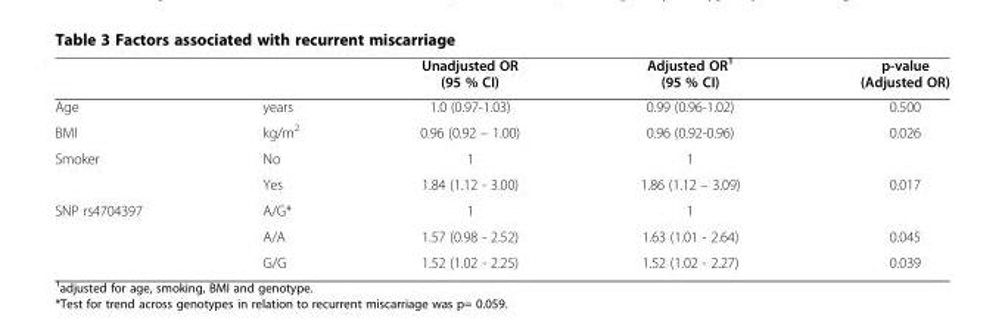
<table><thead><tr><td></td><td></td><td>Unadjusted OR (95 % CI)</td><td>Adjusted OR<sup>1</sup> (95 % CI)</td><td>p-value (Adjusted OR)</td></tr></thead><tbody><tr><td>Age</td><td>years</td><td>1.0 (0.97-1.03)</td><td>0.99 (0.96-1.02)</td><td>0.500</td></tr><tr><td>BMI</td><td>kg/m<sup>2</sup></td><td>0.96 (0.92 – 1.00)</td><td>0.96 (0.92-0.96)</td><td>0.026</td></tr><tr><td rowspan="2">Smoker</td><td>No</td><td>1</td><td>1</td><td></td></tr><tr><td>Yes</td><td>1.84 (1.12 - 3.00)</td><td>1.86 (1.12 – 3.09)</td><td>0.017</td></tr><tr><td rowspan="3">SNP rs4704397</td><td>A/G*</td><td>1</td><td>1</td><td></td></tr><tr><td>A/A</td><td>1.57 (0.98 - 2.52)</td><td>1.63 (1.01 - 2.64)</td><td>0.045</td></tr><tr><td>G/G</td><td>1.52 (1.02 - 2.25)</td><td>1.52 (1.02 - 2.27)</td><td>0.039</td></tr></tbody></table>